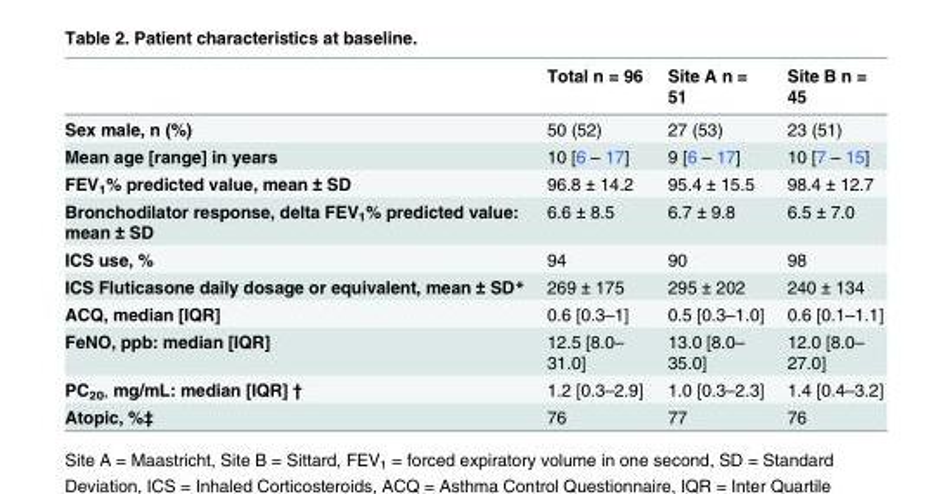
<table><thead><tr><td></td><td>Total n = 96</td><td>Site A n = 51</td><td>Site B n = 45</td></tr></thead><tbody><tr><td>Sex male, n (%)</td><td>50 (52)</td><td>27 (53)</td><td>23 (51)</td></tr><tr><td>Mean age [range] in years</td><td>10 [6 – 17]</td><td>9 [6 – 17]</td><td>10 [7 – 15]</td></tr><tr><td>FEV<sub>1</sub>% predicted value, mean ± SD</td><td>96.8 ± 14.2</td><td>95.4 ± 15.5</td><td>98.4 ± 12.7</td></tr><tr><td>Bronchodilator response, delta FEV<sub>1</sub>% predicted value: mean ± SD</td><td>6.6 ± 8.5</td><td>6.7 ± 9.8</td><td>6.5 ± 7.0</td></tr><tr><td>ICS use, %</td><td>94</td><td>90</td><td>98</td></tr><tr><td>ICS Fluticasone daily dosage or equivalent, mean ± SD*</td><td>269 ± 175</td><td>295 ± 202</td><td>240 ± 134</td></tr><tr><td>ACQ, median [IQR]</td><td>0.6 [0.3–1]</td><td>0.5 [0.3–1.0]</td><td>0.6 [0.1–1.1]</td></tr><tr><td>FeNO, ppb: median [IQR]</td><td>12.5 [8.0– 31.0]</td><td>13.0 [8.0– 35.0]</td><td>12.0 [8.0– 27.0]</td></tr><tr><td>PC<sub>20</sub>, mg/mL: median [IQR] †</td><td>1.2 [0.3–2.9]</td><td>1.0 [0.3–2.3]</td><td>1.4 [0.4–3.2]</td></tr><tr><td>Atopic, %‡</td><td>76</td><td>77</td><td>76</td></tr></tbody></table>